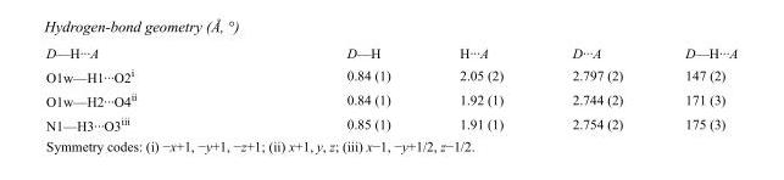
<table><tbody><tr><td>D—H···A</td><td>D—H</td><td>H···A</td><td>D···A</td><td>D—H···A</td></tr><tr><td>O1w—H1···O2<sup>i</sup></td><td>0.84 (1)</td><td>2.05 (2)</td><td>2.797 (2)</td><td>147 (2)</td></tr><tr><td>O1w—H2···O4<sup>ii</sup></td><td>0.84 (1)</td><td>1.92 (1)</td><td>2.744 (2)</td><td>171 (3)</td></tr><tr><td>N1—H3···O3<sup>iii</sup></td><td>0.85 (1)</td><td>1.91 (1)</td><td>2.754 (2)</td><td>175 (3)</td></tr></tbody></table>